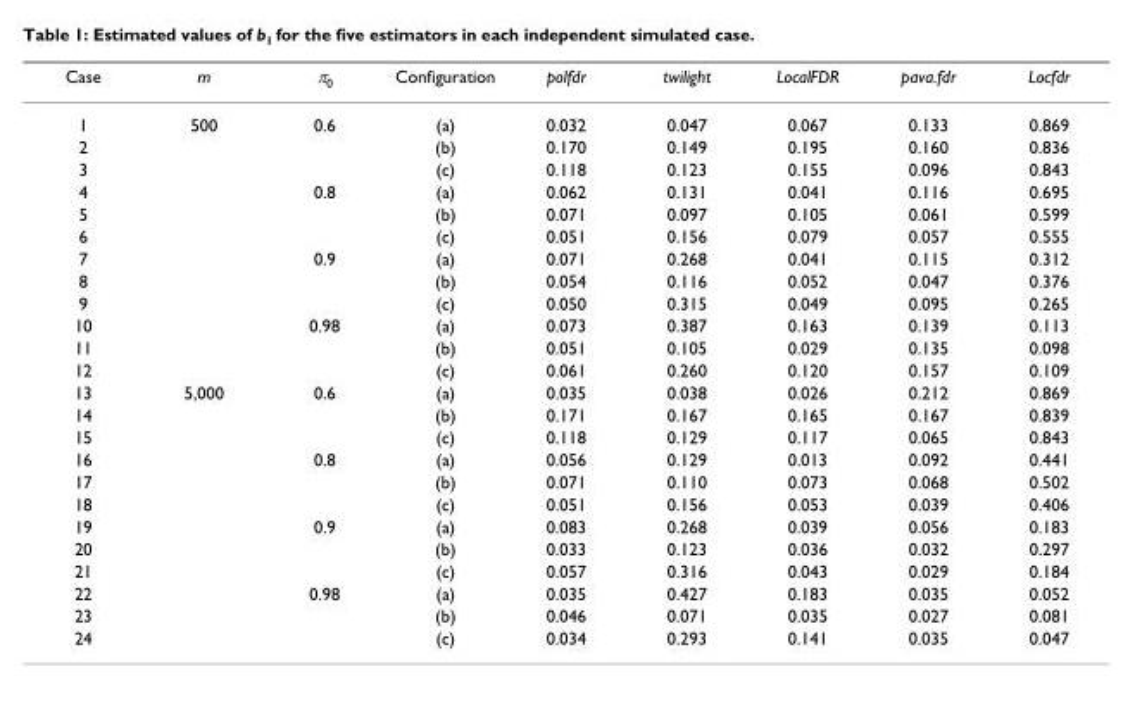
<table><thead><tr><td>Case</td><td>m</td><td>π<sub>0</sub></td><td>Configuration</td><td>polfdr</td><td>twilight</td><td>LocalFDR</td><td>pava.fdr</td><td>Locfdr</td></tr></thead><tbody><tr><td>1</td><td>500</td><td>0.6</td><td>(a)</td><td>0.032</td><td>0.047</td><td>0.067</td><td>0.133</td><td>0.869</td></tr><tr><td>2</td><td></td><td></td><td>(b)</td><td>0.170</td><td>0.149</td><td>0.195</td><td>0.160</td><td>0.836</td></tr><tr><td>3</td><td></td><td></td><td>(c)</td><td>0.118</td><td>0.123</td><td>0.155</td><td>0.096</td><td>0.843</td></tr><tr><td>4</td><td></td><td>0.8</td><td>(a)</td><td>0.062</td><td>0.131</td><td>0.041</td><td>0.116</td><td>0.695</td></tr><tr><td>5</td><td></td><td></td><td>(b)</td><td>0.071</td><td>0.097</td><td>0.105</td><td>0.061</td><td>0.599</td></tr><tr><td>6</td><td></td><td></td><td>(c)</td><td>0.051</td><td>0.156</td><td>0.079</td><td>0.057</td><td>0.555</td></tr><tr><td>7</td><td></td><td>0.9</td><td>(a)</td><td>0.071</td><td>0.268</td><td>0.041</td><td>0.115</td><td>0.312</td></tr><tr><td>8</td><td></td><td></td><td>(b)</td><td>0.054</td><td>0.116</td><td>0.052</td><td>0.047</td><td>0.376</td></tr><tr><td>9</td><td></td><td></td><td>(c)</td><td>0.050</td><td>0.315</td><td>0.049</td><td>0.095</td><td>0.265</td></tr><tr><td>10</td><td></td><td>0.98</td><td>(a)</td><td>0.073</td><td>0.387</td><td>0.163</td><td>0.139</td><td>0.113</td></tr><tr><td>11</td><td></td><td></td><td>(b)</td><td>0.051</td><td>0.105</td><td>0.029</td><td>0.135</td><td>0.098</td></tr><tr><td>12</td><td></td><td></td><td>(c)</td><td>0.061</td><td>0.260</td><td>0.120</td><td>0.157</td><td>0.109</td></tr><tr><td>13</td><td>5,000</td><td>0.6</td><td>(a)</td><td>0.035</td><td>0.038</td><td>0.026</td><td>0.212</td><td>0.869</td></tr><tr><td>14</td><td></td><td></td><td>(b)</td><td>0.171</td><td>0.167</td><td>0.165</td><td>0.167</td><td>0.839</td></tr><tr><td>15</td><td></td><td></td><td>(c)</td><td>0.118</td><td>0.129</td><td>0.117</td><td>0.065</td><td>0.843</td></tr><tr><td>16</td><td></td><td>0.8</td><td>(a)</td><td>0.056</td><td>0.129</td><td>0.013</td><td>0.092</td><td>0.441</td></tr><tr><td>17</td><td></td><td></td><td>(b)</td><td>0.071</td><td>0.110</td><td>0.073</td><td>0.068</td><td>0.502</td></tr><tr><td>18</td><td></td><td></td><td>(c)</td><td>0.051</td><td>0.156</td><td>0.053</td><td>0.039</td><td>0.406</td></tr><tr><td>19</td><td></td><td>0.9</td><td>(a)</td><td>0.083</td><td>0.268</td><td>0.039</td><td>0.056</td><td>0.183</td></tr><tr><td>20</td><td></td><td></td><td>(b)</td><td>0.033</td><td>0.123</td><td>0.036</td><td>0.032</td><td>0.297</td></tr><tr><td>21</td><td></td><td></td><td>(c)</td><td>0.057</td><td>0.316</td><td>0.043</td><td>0.029</td><td>0.184</td></tr><tr><td>22</td><td></td><td>0.98</td><td>(a)</td><td>0.035</td><td>0.427</td><td>0.183</td><td>0.035</td><td>0.052</td></tr><tr><td>23</td><td></td><td></td><td>(b)</td><td>0.046</td><td>0.071</td><td>0.035</td><td>0.027</td><td>0.081</td></tr><tr><td>24</td><td></td><td></td><td>(c)</td><td>0.034</td><td>0.293</td><td>0.141</td><td>0.035</td><td>0.047</td></tr></tbody></table>